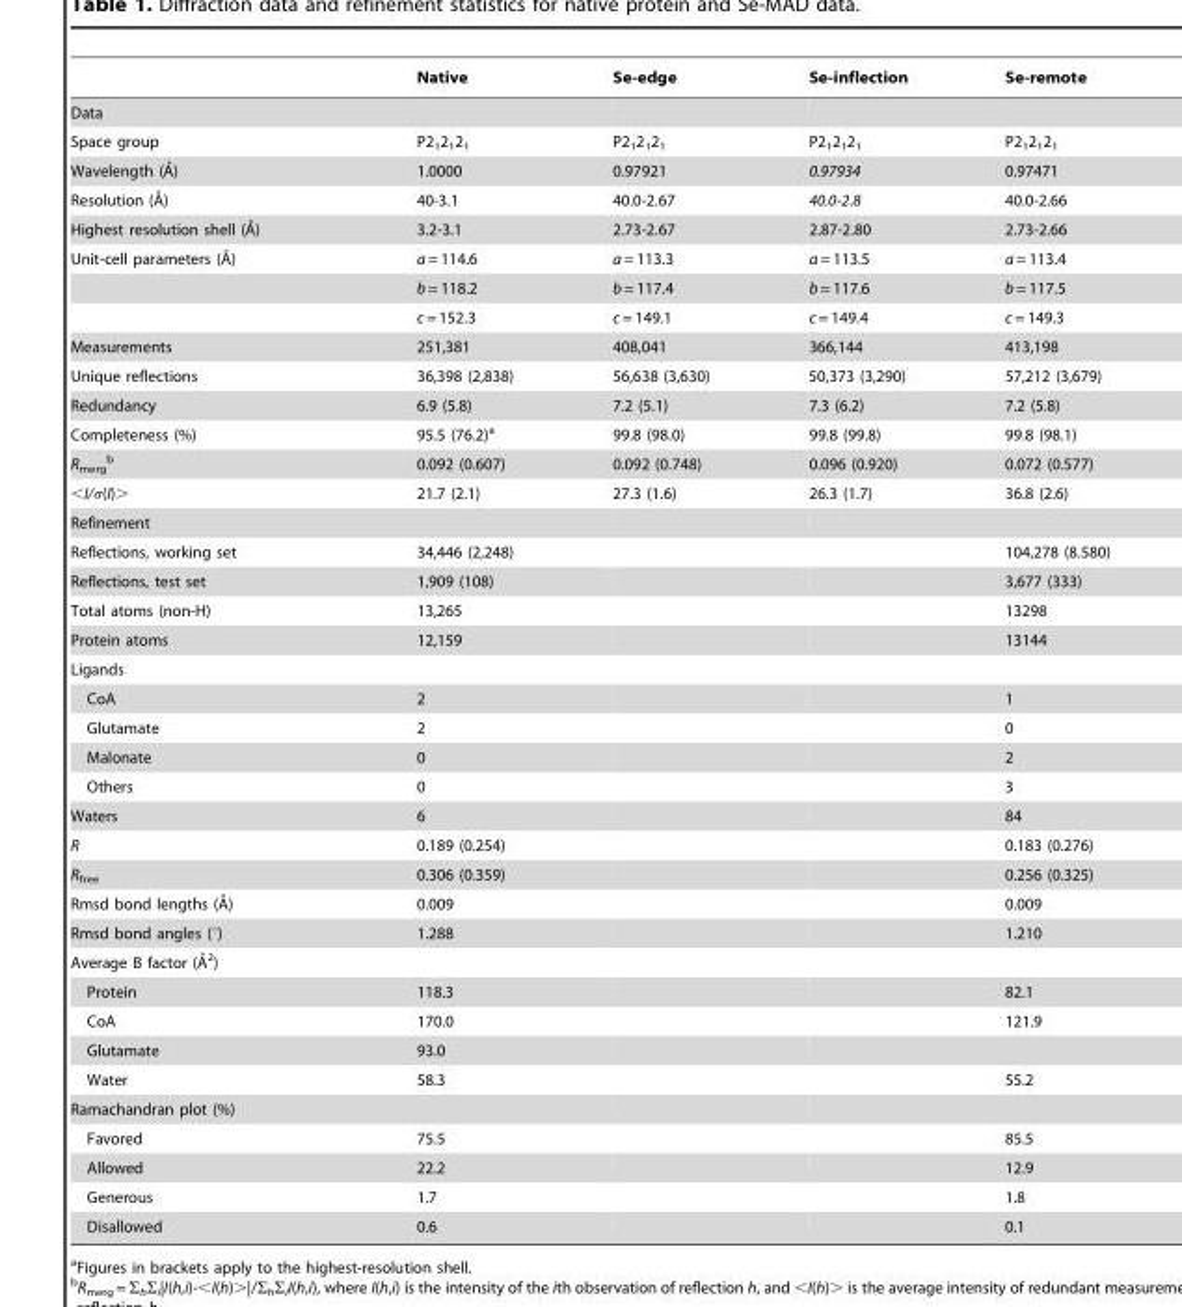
<table><thead><tr><td></td><td>Native</td><td>Se-edge</td><td>Se-inflection</td><td>Se-remote</td></tr></thead><tbody><tr><td colspan="5">Data</td></tr><tr><td>Space group</td><td>P2<sub>1</sub>2<sub>1</sub>2<sub>1</sub></td><td>P2<sub>1</sub>2<sub>1</sub>2<sub>1</sub></td><td>P2<sub>1</sub>2<sub>1</sub>2<sub>1</sub></td><td>P2<sub>1</sub>2<sub>1</sub>2<sub>1</sub></td></tr><tr><td>Wavelength (A˚)</td><td>1.0000</td><td>0.97921</td><td>0.97934</td><td>0.97471</td></tr><tr><td>Resolution (A˚)</td><td>40-3.1</td><td>40.0-2.67</td><td>40.0-2.8</td><td>40.0-2.66</td></tr><tr><td>Highest resolution shell (A˚)</td><td>3.2-3.1</td><td>2.73-2.67</td><td>2.87-2.80</td><td>2.73-2.66</td></tr><tr><td rowspan="3">Unit-cell parameters (A˚)</td><td>a = 114.6</td><td>a = 113.3</td><td>a = 113.5</td><td>a = 113.4</td></tr><tr><td>b = 118.2</td><td>b = 117.4</td><td>b = 117.6</td><td>b = 117.5</td></tr><tr><td>c = 152.3</td><td>c = 149.1</td><td>c = 149.4</td><td>c = 149.3</td></tr><tr><td>Measurements</td><td>251,381</td><td>408,041</td><td>366,144</td><td>413,198</td></tr><tr><td>Unique reflections</td><td>36,398 (2,838)</td><td>56,638 (3,630)</td><td>50,373 (3,290)</td><td>57,212 (3,679)</td></tr><tr><td>Redundancy</td><td>6.9 (5.8)</td><td>7.2 (5.1)</td><td>7.3 (6.2)</td><td>7.2 (5.8)</td></tr><tr><td>Completeness (%)</td><td>95.5 (76.2)<sup>a</sup></td><td>99.8 (98.0)</td><td>99.8 (99.8)</td><td>99.8 (98.1)</td></tr><tr><td>R<sub>merg</sub> b</td><td>0.092 (0.607)</td><td>0.092 (0.748)</td><td>0.096 (0.920)</td><td>0.072 (0.577)</td></tr><tr><td>&lt;I/σ(I)&gt;</td><td>21.7 (2.1)</td><td>27.3 (1.6)</td><td>26.3 (1.7)</td><td>36.8 (2.6)</td></tr><tr><td colspan="5">Refinement</td></tr><tr><td>Reflections, working set</td><td>34,446 (2,248)</td><td></td><td></td><td>104,278 (8.580)</td></tr><tr><td>Reflections, test set</td><td>1,909 (108)</td><td></td><td></td><td>3,677 (333)</td></tr><tr><td>Total atoms (non-H)</td><td>13,265</td><td></td><td></td><td>13298</td></tr><tr><td>Protein atoms</td><td>12,159</td><td></td><td></td><td>13144</td></tr><tr><td colspan="5">Ligands</td></tr><tr><td>CoA</td><td>2</td><td></td><td></td><td>1</td></tr><tr><td>Glutamate</td><td>2</td><td></td><td></td><td>0</td></tr><tr><td>Malonate</td><td>0</td><td></td><td></td><td>2</td></tr><tr><td>Others</td><td>0</td><td></td><td></td><td>3</td></tr><tr><td>Waters</td><td>6</td><td></td><td></td><td>84</td></tr><tr><td>R</td><td>0.189 (0.254)</td><td></td><td></td><td>0.183 (0.276)</td></tr><tr><td>R<sub>free</sub></td><td>0.306 (0.359)</td><td></td><td></td><td>0.256 (0.325)</td></tr><tr><td>Rmsd bond lengths (A˚)</td><td>0.009</td><td></td><td></td><td>0.009</td></tr><tr><td>Rmsd bond angles (°)</td><td>1.288</td><td></td><td></td><td>1.210</td></tr><tr><td colspan="5">Average B factor (A˚2)</td></tr><tr><td>Protein</td><td>118.3</td><td></td><td></td><td>82.1</td></tr><tr><td>CoA</td><td>170.0</td><td></td><td></td><td>121.9</td></tr><tr><td>Glutamate</td><td>93.0</td><td></td><td></td><td></td></tr><tr><td>Water</td><td>58.3</td><td></td><td></td><td>55.2</td></tr><tr><td colspan="5">Ramachandran plot (%)</td></tr><tr><td>Favored</td><td>75.5</td><td></td><td></td><td>85.5</td></tr><tr><td>Allowed</td><td>22.2</td><td></td><td></td><td>12.9</td></tr><tr><td>Generous</td><td>1.7</td><td></td><td></td><td>1.8</td></tr><tr><td>Disallowed</td><td>0.6</td><td></td><td></td><td>0.1</td></tr></tbody></table>